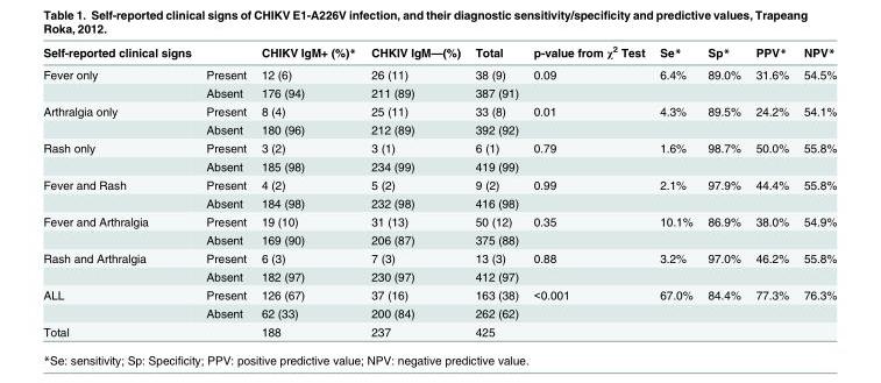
<table><thead><tr><td>Self-reported clinical signs</td><td></td><td>CHIKV IgM+ (%)*</td><td>CHKIV IgM—(%)</td><td>Total</td><td>p-value from χ<sup>2</sup> Test</td><td>Se*</td><td>Sp*</td><td>PPV*</td><td>NPV*</td></tr></thead><tbody><tr><td rowspan="2">Fever only</td><td>Present</td><td>12 (6)</td><td>26 (11)</td><td>38 (9)</td><td>0.09</td><td>6.4%</td><td>89.0%</td><td>31.6%</td><td>54.5%</td></tr><tr><td>Absent</td><td>176 (94)</td><td>211 (89)</td><td>387 (91)</td><td></td><td></td><td></td><td></td><td></td></tr><tr><td rowspan="2">Arthralgia only</td><td>Present</td><td>8 (4)</td><td>25 (11)</td><td>33 (8)</td><td>0.01</td><td>4.3%</td><td>89.5%</td><td>24.2%</td><td>54.1%</td></tr><tr><td>Absent</td><td>180 (96)</td><td>212 (89)</td><td>392 (92)</td><td></td><td></td><td></td><td></td><td></td></tr><tr><td rowspan="2">Rash only</td><td>Present</td><td>3 (2)</td><td>3 (1)</td><td>6 (1)</td><td>0.79</td><td>1.6%</td><td>98.7%</td><td>50.0%</td><td>55.8%</td></tr><tr><td>Absent</td><td>185 (98)</td><td>234 (99)</td><td>419 (99)</td><td></td><td></td><td></td><td></td><td></td></tr><tr><td rowspan="2">Fever and Rash</td><td>Present</td><td>4 (2)</td><td>5 (2)</td><td>9 (2)</td><td>0.99</td><td>2.1%</td><td>97.9%</td><td>44.4%</td><td>55.8%</td></tr><tr><td>Absent</td><td>184 (98)</td><td>232 (98)</td><td>416 (98)</td><td></td><td></td><td></td><td></td><td></td></tr><tr><td rowspan="2">Fever and Arthralgia</td><td>Present</td><td>19 (10)</td><td>31 (13)</td><td>50 (12)</td><td>0.35</td><td>10.1%</td><td>86.9%</td><td>38.0%</td><td>54.9%</td></tr><tr><td>Absent</td><td>169 (90)</td><td>206 (87)</td><td>375 (88)</td><td></td><td></td><td></td><td></td><td></td></tr><tr><td rowspan="2">Rash and Arthralgia</td><td>Present</td><td>6 (3)</td><td>7 (3)</td><td>13 (3)</td><td>0.88</td><td>3.2%</td><td>97.0%</td><td>46.2%</td><td>55.8%</td></tr><tr><td>Absent</td><td>182 (97)</td><td>230 (97)</td><td>412 (97)</td><td></td><td></td><td></td><td></td><td></td></tr><tr><td rowspan="2">ALL</td><td>Present</td><td>126 (67)</td><td>37 (16)</td><td>163 (38)</td><td>&lt;0.001</td><td>67.0%</td><td>84.4%</td><td>77.3%</td><td>76.3%</td></tr><tr><td>Absent</td><td>62 (33)</td><td>200 (84)</td><td>262 (62)</td><td></td><td></td><td></td><td></td><td></td></tr><tr><td>Total</td><td></td><td>188</td><td>237</td><td>425</td><td></td><td></td><td></td><td></td><td></td></tr></tbody></table>